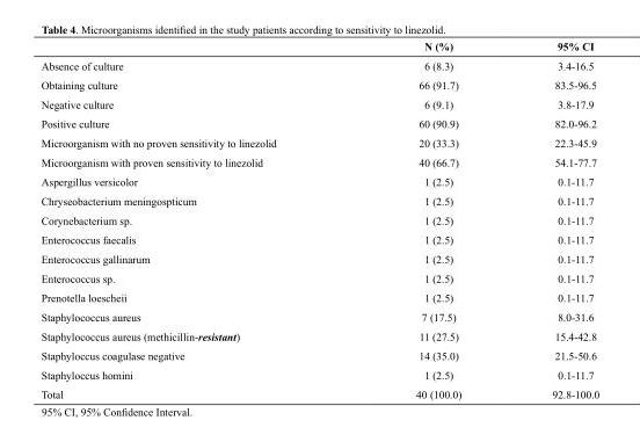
<table><thead><tr><td></td><td>N (%)</td><td>95% CI</td></tr></thead><tbody><tr><td>Absence of culture</td><td>6 (8.3)</td><td>3.4-16.5</td></tr><tr><td>Obtaining culture</td><td>66 (91.7)</td><td>83.5-96.5</td></tr><tr><td>Negative culture</td><td>6 (9.1)</td><td>3.8-17.9</td></tr><tr><td>Positive culture</td><td>60 (90.9)</td><td>82.0-96.2</td></tr><tr><td>Microorganism with no proven sensitivity to linezolid</td><td>20 (33.3)</td><td>22.3-45.9</td></tr><tr><td>Microorganism with proven sensitivity to linezolid</td><td>40 (66.7)</td><td>54.1-77.7</td></tr><tr><td>Aspergillus versicolor</td><td>1 (2.5)</td><td>0.1-11.7</td></tr><tr><td>Chryseobacterium meningospticum</td><td>1 (2.5)</td><td>0.1-11.7</td></tr><tr><td>Corynebacterium sp.</td><td>1 (2.5)</td><td>0.1-11.7</td></tr><tr><td>Enterococcus faecalis</td><td>1 (2.5)</td><td>0.1-11.7</td></tr><tr><td>Enterococcus gallinarum</td><td>1 (2.5)</td><td>0.1-11.7</td></tr><tr><td>Enterococcus sp.</td><td>1 (2.5)</td><td>0.1-11.7</td></tr><tr><td>Prenotella loescheii</td><td>1 (2.5)</td><td>0.1-11.7</td></tr><tr><td>Staphylococcus aureus</td><td>7 (17.5)</td><td>8.0-31.6</td></tr><tr><td>Staphylococcus aureus (methicillin-resistant)</td><td>11 (27.5)</td><td>15.4-42.8</td></tr><tr><td>Staphyloccus coagulase negative</td><td>14 (35.0)</td><td>21.5-50.6</td></tr><tr><td>Staphyloccus homini</td><td>1 (2.5)</td><td>0.1-11.7</td></tr><tr><td>Total</td><td>40 (100.0)</td><td>92.8-100.0</td></tr></tbody></table>